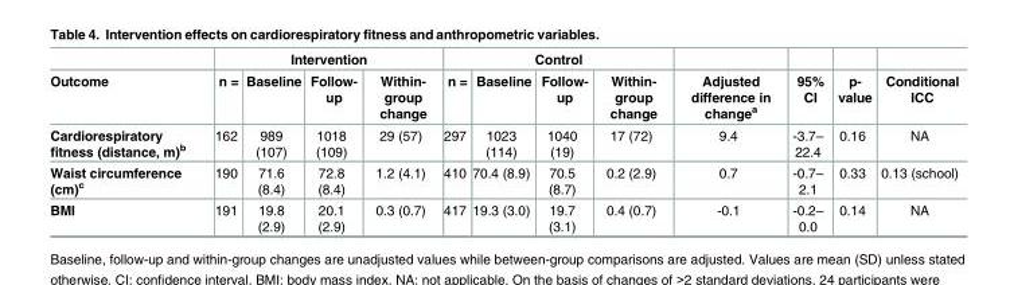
<table><thead><tr><td rowspan="2">Outcome</td><td colspan="4">Intervention</td><td colspan="4">Control</td><td rowspan="2">Adjusted difference in change<sup>a</sup></td><td rowspan="2">95% CI</td><td rowspan="2">p- value</td><td rowspan="2">Conditional ICC</td></tr><tr><td>n =</td><td>Baseline</td><td>Follow- up</td><td>Within- group change</td><td>n =</td><td>Baseline</td><td>Follow- up</td><td>Within- group change</td></tr></thead><tbody><tr><td>Cardiorespiratory fitness (distance, m)<sup>b</sup></td><td>162</td><td>989 (107)</td><td>1018 (109)</td><td>29 (57)</td><td>297</td><td>1023 (114)</td><td>1040 (19)</td><td>17 (72)</td><td>9.4</td><td>-3.7– 22.4</td><td>0.16</td><td>NA</td></tr><tr><td>Waist circumference (cm)<sup>c</sup></td><td>190</td><td>71.6 (8.4)</td><td>72.8 (8.4)</td><td>1.2 (4.1)</td><td>410</td><td>70.4 (8.9)</td><td>70.5 (8.7)</td><td>0.2 (2.9)</td><td>0.7</td><td>-0.7– 2.1</td><td>0.33</td><td>0.13 (school)</td></tr><tr><td>BMI</td><td>191</td><td>19.8 (2.9)</td><td>20.1 (2.9)</td><td>0.3 (0.7)</td><td>417</td><td>19.3 (3.0)</td><td>19.7 (3.1)</td><td>0.4 (0.7)</td><td>-0.1</td><td>-0.2– 0.0</td><td>0.14</td><td>NA</td></tr></tbody></table>